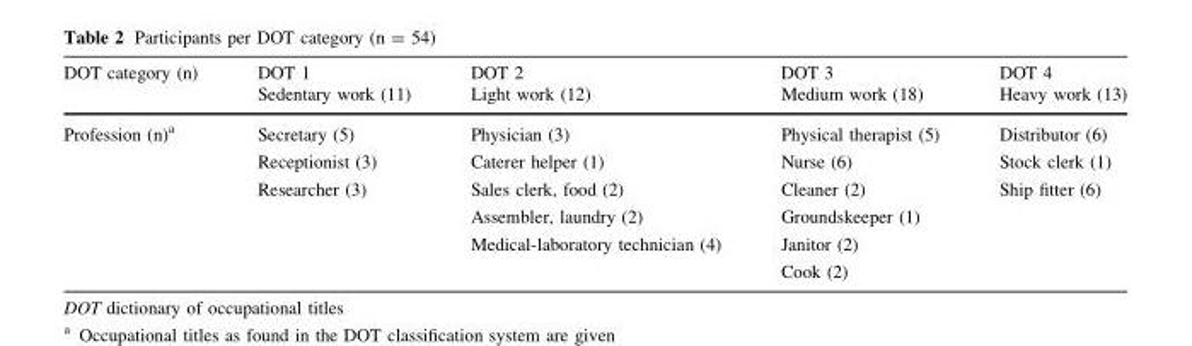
<table><thead><tr><td>DOT category (n)</td><td>DOT 1 Sedentary work (11)</td><td>DOT 2 Light work (12)</td><td>DOT 3 Medium work (18)</td><td>DOT 4 Heavy work (13)</td></tr></thead><tbody><tr><td>Profession (n)<sup>a</sup></td><td>Secretary (5) Receptionist (3) Researcher (3)</td><td>Physician (3) Caterer helper (1) Sales clerk, food (2) Assembler, laundry (2) Medical-laboratory technician (4)</td><td>Physical therapist (5) Nurse (6) Cleaner (2) Groundskeeper (1) Janitor (2) Cook (2)</td><td>Distributor (6) Stock clerk (1) Ship fitter (6)</td></tr></tbody></table>